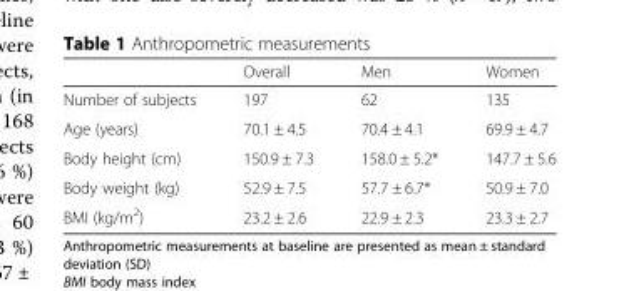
<table><thead><tr><td></td><td>Overall</td><td>Men</td><td>Women</td></tr></thead><tbody><tr><td>Number of subjects</td><td>197</td><td>62</td><td>135</td></tr><tr><td>Age (years)</td><td>70.1 ± 4.5</td><td>70.4 ± 4.1</td><td>69.9 ± 4.7</td></tr><tr><td>Body height (cm)</td><td>150.9 ± 7.3</td><td>158.0 ± 5.2*</td><td>147.7 ± 5.6</td></tr><tr><td>Body weight (kg)</td><td>52.9 ± 7.5</td><td>57.7 ± 6.7*</td><td>50.9 ± 7.0</td></tr><tr><td>BMI (kg/m<sup>2</sup>)</td><td>23.2 ± 2.6</td><td>22.9 ± 2.3</td><td>23.3 ± 2.7</td></tr></tbody></table>